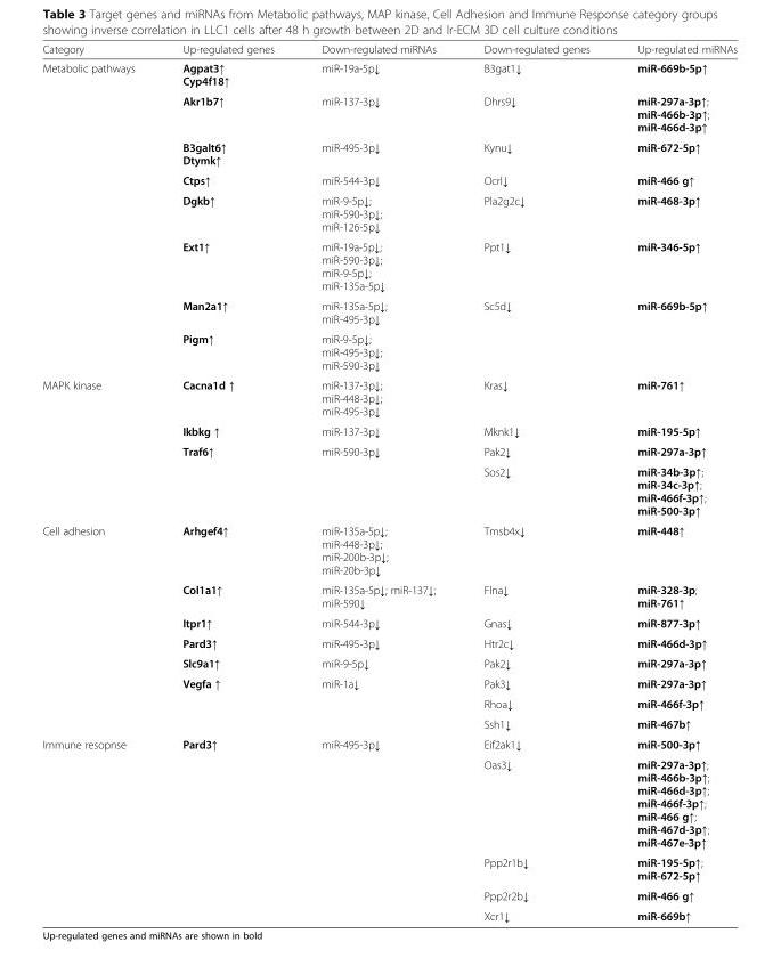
<table><thead><tr><td>Category</td><td>Up-regulated genes</td><td>Down-regulated miRNAs</td><td>Down-regulated genes</td><td>Up-regulated miRNAs</td></tr></thead><tbody><tr><td rowspan="8">Metabolic pathways</td><td>Agpat3↑ Cyp4f18↑</td><td>miR-19a-5p↓</td><td>B3gat1↓</td><td>miR-669b-5p↑</td></tr><tr><td>Akr1b7↑</td><td>miR-137-3p↓</td><td>Dhrs9↓</td><td>miR-297a-3p↑; miR-466b-3p↑; miR-466d-3p↑</td></tr><tr><td>B3galt6↑ Dtymk↑</td><td>miR-495-3p↓</td><td>Kynu↓</td><td>miR-672-5p↑</td></tr><tr><td>Ctps↑</td><td>miR-544-3p↓</td><td>Ocrl↓</td><td>miR-466 g↑</td></tr><tr><td>Dgkb↑</td><td>miR-9-5p↓; miR-590-3p↓; miR-126-5p↓</td><td>Pla2g2c↓</td><td>miR-468-3p↑</td></tr><tr><td>Ext1↑</td><td>miR-19a-5p↓; miR-590-3p↓; miR-9-5p↓; miR-135a-5p↓</td><td>Ppt1↓</td><td>miR-346-5p↑</td></tr><tr><td>Man2a1↑</td><td>miR-135a-5p↓; miR-495-3p↓</td><td>Sc5d↓</td><td>miR-669b-5p↑</td></tr><tr><td>Pigm↑</td><td>miR-9-5p↓; miR-495-3p↓; miR-590-3p↓</td><td></td><td></td></tr><tr><td rowspan="4">MAPK kinase</td><td>Cacna1d ↑</td><td>miR-137-3p↓; miR-448-3p↓; miR-495-3p↓</td><td>Kras↓</td><td>miR-761↑</td></tr><tr><td>Ikbkg ↑</td><td>miR-137-3p↓</td><td>Mknk1↓</td><td>miR-195-5p↑</td></tr><tr><td>Traf6↑</td><td>miR-590-3p↓</td><td>Pak2↓</td><td>miR-297a-3p↑</td></tr><tr><td></td><td></td><td>Sos2↓</td><td>miR-34b-3p↑; miR-34c-3p↑; miR-466f-3p↑; miR-500-3p↑</td></tr><tr><td rowspan="8">Cell adhesion</td><td>Arhgef4↑</td><td>miR-135a-5p↓; miR-448-3p↓; miR-200b-3p↓; miR-20b-3p↓</td><td>Tmsb4x↓</td><td>miR-448↑</td></tr><tr><td>Col1a1↑</td><td>miR-135a-5p↓; miR-137↓; miR-590↓</td><td>Flna↓</td><td>miR-328-3p; miR-761↑</td></tr><tr><td>Itpr1↑</td><td>miR-544-3p↓</td><td>Gnas↓</td><td>miR-877-3p↑</td></tr><tr><td>Pard3↑</td><td>miR-495-3p↓</td><td>Htr2c↓</td><td>miR-466d-3p↑</td></tr><tr><td>Slc9a1↑</td><td>miR-9-5p↓</td><td>Pak2↓</td><td>miR-297a-3p↑</td></tr><tr><td>Vegfa ↑</td><td>miR-1a↓</td><td>Pak3↓</td><td>miR-297a-3p↑</td></tr><tr><td></td><td></td><td>Rhoa↓</td><td>miR-466f-3p↑</td></tr><tr><td></td><td></td><td>Ssh1↓</td><td>miR-467b↑</td></tr><tr><td rowspan="5">Immune resopnse</td><td>Pard3↑</td><td>miR-495-3p↓</td><td>Eif2ak1↓</td><td>miR-500-3p↑</td></tr><tr><td></td><td></td><td>Oas3↓</td><td>miR-297a-3p↑; miR-466b-3p↑; miR-466d-3p↑; miR-466f-3p↑; miR-466 g↑; miR-467d-3p↑; miR-467e-3p↑</td></tr><tr><td></td><td></td><td>Ppp2r1b↓</td><td>miR-195-5p↑; miR-672-5p↑</td></tr><tr><td></td><td></td><td>Ppp2r2b↓</td><td>miR-466 g↑</td></tr><tr><td></td><td></td><td>Xcr1↓</td><td>miR-669b↑</td></tr></tbody></table>